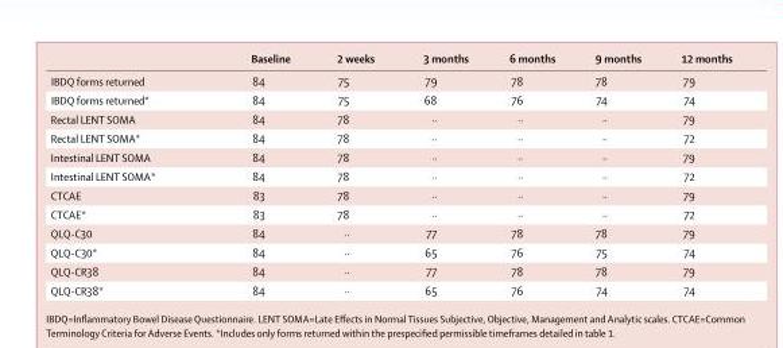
<table><thead><tr><td></td><td>Baseline</td><td>2 weeks</td><td>3 months</td><td>6 months</td><td>9 months</td><td>12 months</td></tr></thead><tbody><tr><td>IBDQ forms returned</td><td>84</td><td>75</td><td>79</td><td>78</td><td>78</td><td>79</td></tr><tr><td>IBDQ forms returned*</td><td>84</td><td>75</td><td>68</td><td>76</td><td>74</td><td>74</td></tr><tr><td>Rectal LENT SOMA</td><td>84</td><td>78</td><td>··</td><td>··</td><td>··</td><td>79</td></tr><tr><td>Rectal LENT SOMA*</td><td>84</td><td>78</td><td>··</td><td>··</td><td>··</td><td>72</td></tr><tr><td>Intestinal LENT SOMA</td><td>84</td><td>78</td><td>··</td><td>··</td><td>··</td><td>79</td></tr><tr><td>Intestinal LENT SOMA*</td><td>84</td><td>78</td><td>··</td><td>··</td><td>··</td><td>72</td></tr><tr><td>CTCAE</td><td>83</td><td>78</td><td>··</td><td>··</td><td>··</td><td>79</td></tr><tr><td>CTCAE*</td><td>83</td><td>78</td><td>··</td><td>··</td><td>··</td><td>72</td></tr><tr><td>QLQ-C30</td><td>84</td><td>··</td><td>77</td><td>78</td><td>78</td><td>79</td></tr><tr><td>QLQ-C30*</td><td>84</td><td>··</td><td>65</td><td>76</td><td>75</td><td>74</td></tr><tr><td>QLQ-CR38</td><td>84</td><td>··</td><td>77</td><td>78</td><td>78</td><td>79</td></tr><tr><td>QLQ-CR38*</td><td>84</td><td>··</td><td>65</td><td>76</td><td>74</td><td>74</td></tr></tbody></table>